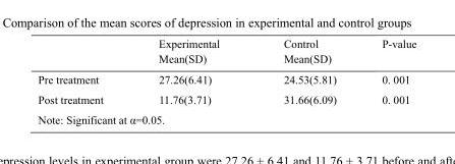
<table><thead><tr><td></td><td>Experimental Mean(SD)</td><td>Control Mean(SD)</td><td>P-value</td></tr></thead><tbody><tr><td>Pre treatment</td><td>27.26(6.41)</td><td>24.53(5.81)</td><td>0. 001</td></tr><tr><td>Post treatment</td><td>11.76(3.71)</td><td>31.66(6.09)</td><td>0. 001</td></tr><tr><td colspan="4">Note: Significant at α=0.05.</td></tr></tbody></table>